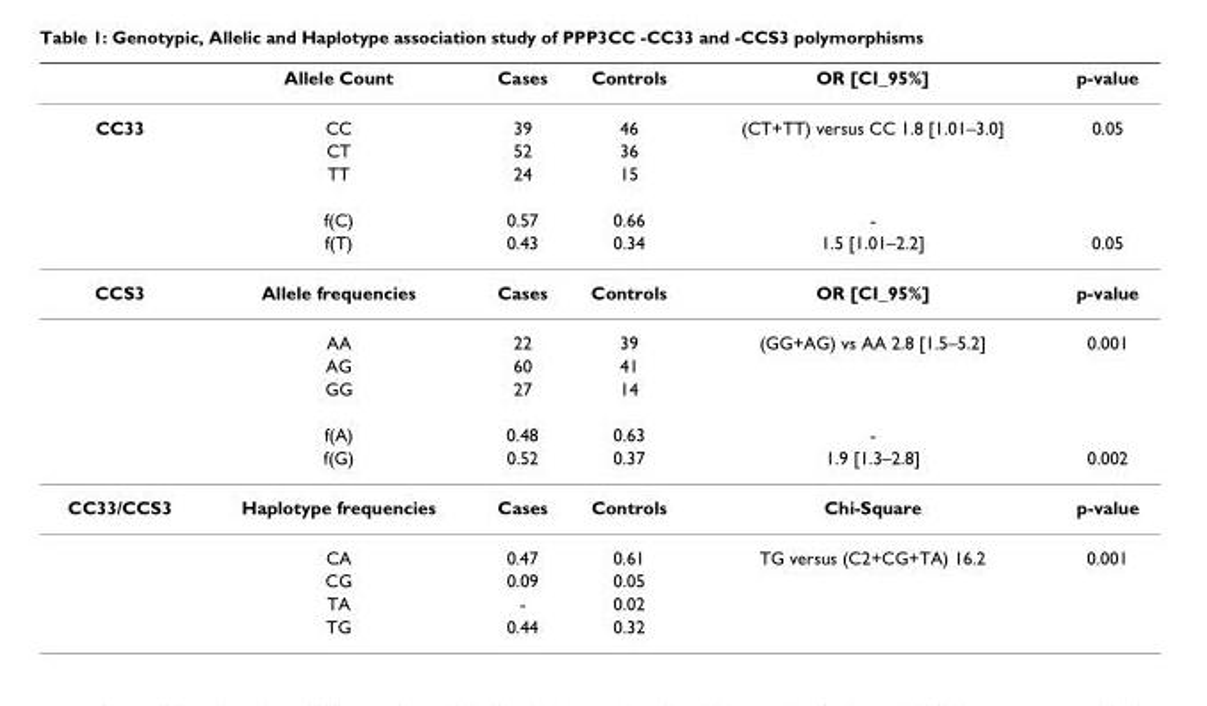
<table><thead><tr><td></td><td>Allele Count</td><td>Cases</td><td>Controls</td><td>OR [CI_95%]</td><td>p-value</td></tr></thead><tbody><tr><td rowspan="5">CC33</td><td>CC</td><td>39</td><td>46</td><td>(CT+TT) versus CC 1.8 [1.01–3.0]</td><td>0.05</td></tr><tr><td>CT</td><td>52</td><td>36</td><td></td><td></td></tr><tr><td>TT</td><td>24</td><td>15</td><td></td><td></td></tr><tr><td>f(C)</td><td>0.57</td><td>0.66</td><td>-</td><td></td></tr><tr><td>f(T)</td><td>0.43</td><td>0.34</td><td>1.5 [1.01–2.2]</td><td>0.05</td></tr><tr><td rowspan="6">CCS3</td><td>Allele frequencies</td><td>Cases</td><td>Controls</td><td>OR [CI_95%]</td><td>p-value</td></tr><tr><td>AA</td><td>22</td><td>39</td><td>(GG+AG) vs AA 2.8 [1.5–5.2]</td><td>0.001</td></tr><tr><td>AG</td><td>60</td><td>41</td><td></td><td></td></tr><tr><td>GG</td><td>27</td><td>14</td><td></td><td></td></tr><tr><td>f(A)</td><td>0.48</td><td>0.63</td><td>-</td><td></td></tr><tr><td>f(G)</td><td>0.52</td><td>0.37</td><td>1.9 [1.3–2.8]</td><td>0.002</td></tr><tr><td rowspan="5">CC33/CCS3</td><td>Haplotype frequencies</td><td>Cases</td><td>Controls</td><td>Chi-Square</td><td>p-value</td></tr><tr><td>CA</td><td>0.47</td><td>0.61</td><td>TG versus (C2+CG+TA) 16.2</td><td>0.001</td></tr><tr><td>CG</td><td>0.09</td><td>0.05</td><td></td><td></td></tr><tr><td>TA</td><td>-</td><td>0.02</td><td></td><td></td></tr><tr><td>TG</td><td>0.44</td><td>0.32</td><td></td><td></td></tr></tbody></table>